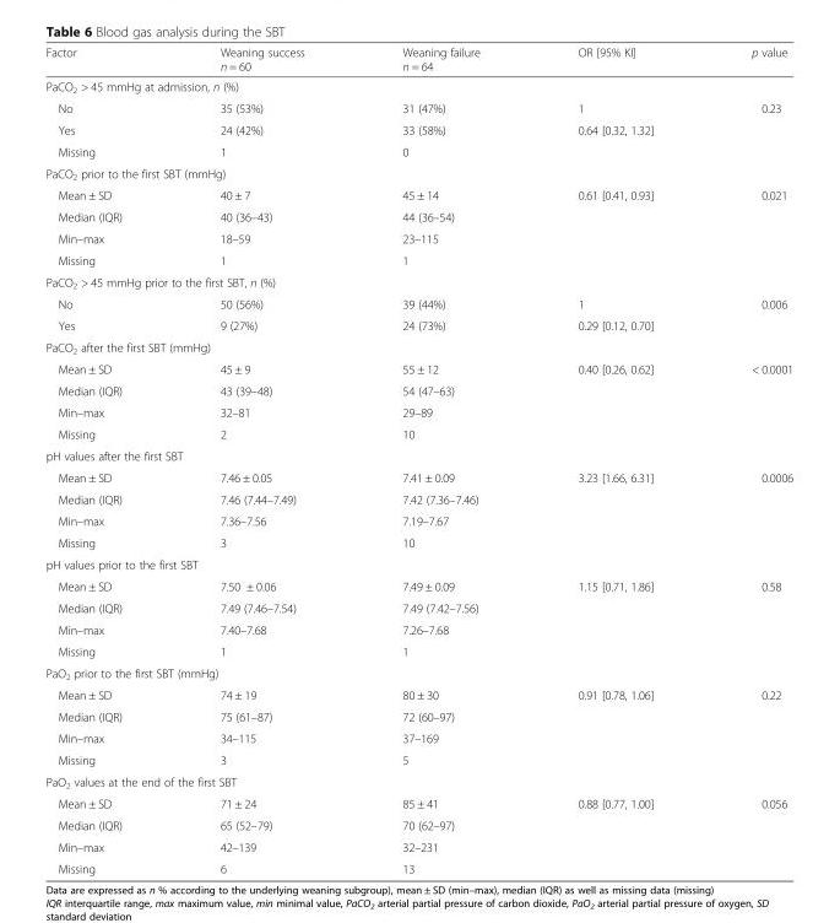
<table><thead><tr><td>Factor</td><td>Weaning success n = 60</td><td>Weaning failure n = 64</td><td>OR [95% KI]</td><td>p value</td></tr></thead><tbody><tr><td colspan="5">PaCO<sub>2</sub> &gt; 45 mmHg at admission, n (%)</td></tr><tr><td>No</td><td>35 (53%)</td><td>31 (47%)</td><td>1</td><td>0.23</td></tr><tr><td>Yes</td><td>24 (42%)</td><td>33 (58%)</td><td>0.64 [0.32, 1.32]</td><td></td></tr><tr><td>Missing</td><td>1</td><td>0</td><td></td><td></td></tr><tr><td colspan="5">PaCO<sub>2</sub> prior to the first SBT (mmHg)</td></tr><tr><td>Mean ± SD</td><td>40 ± 7</td><td>45 ± 14</td><td>0.61 [0.41, 0.93]</td><td>0.021</td></tr><tr><td>Median (IQR)</td><td>40 (36–43)</td><td>44 (36–54)</td><td></td><td></td></tr><tr><td>Min–max</td><td>18–59</td><td>23–115</td><td></td><td></td></tr><tr><td>Missing</td><td>1</td><td>1</td><td></td><td></td></tr><tr><td colspan="5">PaCO<sub>2</sub> &gt; 45 mmHg prior to the first SBT, n (%)</td></tr><tr><td>No</td><td>50 (56%)</td><td>39 (44%)</td><td>1</td><td>0.006</td></tr><tr><td>Yes</td><td>9 (27%)</td><td>24 (73%)</td><td>0.29 [0.12, 0.70]</td><td></td></tr><tr><td colspan="5">PaCO<sub>2</sub> after the first SBT (mmHg)</td></tr><tr><td>Mean ± SD</td><td>45 ± 9</td><td>55 ± 12</td><td>0.40 [0.26, 0.62]</td><td>&lt; 0.0001</td></tr><tr><td>Median (IQR)</td><td>43 (39–48)</td><td>54 (47–63)</td><td></td><td></td></tr><tr><td>Min–max</td><td>32–81</td><td>29–89</td><td></td><td></td></tr><tr><td>Missing</td><td>2</td><td>10</td><td></td><td></td></tr><tr><td colspan="5">pH values after the first SBT</td></tr><tr><td>Mean ± SD</td><td>7.46 ± 0.05</td><td>7.41 ± 0.09</td><td>3.23 [1.66, 6.31]</td><td>0.0006</td></tr><tr><td>Median (IQR)</td><td>7.46 (7.44–7.49)</td><td>7.42 (7.36–7.46)</td><td></td><td></td></tr><tr><td>Min–max</td><td>7.36–7.56</td><td>7.19–7.67</td><td></td><td></td></tr><tr><td>Missing</td><td>3</td><td>10</td><td></td><td></td></tr><tr><td colspan="5">pH values prior to the first SBT</td></tr><tr><td>Mean ± SD</td><td>7.50 ± 0.06</td><td>7.49 ± 0.09</td><td>1.15 [0.71, 1.86]</td><td>0.58</td></tr><tr><td>Median (IQR)</td><td>7.49 (7.46–7.54)</td><td>7.49 (7.42–7.56)</td><td></td><td></td></tr><tr><td>Min–max</td><td>7.40–7.68</td><td>7.26–7.68</td><td></td><td></td></tr><tr><td>Missing</td><td>1</td><td>1</td><td></td><td></td></tr><tr><td colspan="5">PaO<sub>2</sub> prior to the first SBT (mmHg)</td></tr><tr><td>Mean ± SD</td><td>74 ± 19</td><td>80 ± 30</td><td>0.91 [0.78, 1.06]</td><td>0.22</td></tr><tr><td>Median (IQR)</td><td>75 (61–87)</td><td>72 (60–97)</td><td></td><td></td></tr><tr><td>Min–max</td><td>34–115</td><td>37–169</td><td></td><td></td></tr><tr><td>Missing</td><td>3</td><td>5</td><td></td><td></td></tr><tr><td colspan="5">PaO<sub>2</sub> values at the end of the first SBT</td></tr><tr><td>Mean ± SD</td><td>71 ± 24</td><td>85 ± 41</td><td>0.88 [0.77, 1.00]</td><td>0.056</td></tr><tr><td>Median (IQR)</td><td>65 (52–79)</td><td>70 (62–97)</td><td></td><td></td></tr><tr><td>Min–max</td><td>42–139</td><td>32–231</td><td></td><td></td></tr><tr><td>Missing</td><td>6</td><td>13</td><td></td><td></td></tr></tbody></table>